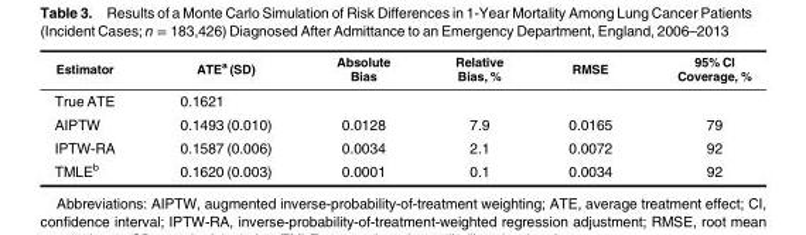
<table><thead><tr><td>Estimator</td><td>ATE<sup>a</sup> (SD)</td><td>Absolute Bias</td><td>Relative Bias, %</td><td>RMSE</td><td>95% CI Coverage, %</td></tr></thead><tbody><tr><td>True ATE</td><td>0.1621</td><td></td><td></td><td></td><td></td></tr><tr><td>AIPTW</td><td>0.1493 (0.010)</td><td>0.0128</td><td>7.9</td><td>0.0165</td><td>79</td></tr><tr><td>IPTW-RA</td><td>0.1587 (0.006)</td><td>0.0034</td><td>2.1</td><td>0.0072</td><td>92</td></tr><tr><td>TMLE<sup>b</sup></td><td>0.1620 (0.003)</td><td>0.0001</td><td>0.1</td><td>0.0034</td><td>92</td></tr></tbody></table>